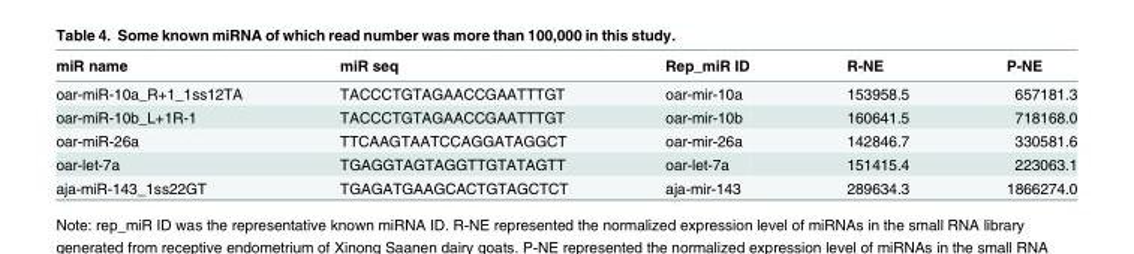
<table><thead><tr><td>miR name</td><td>miR seq</td><td>Rep_miR ID</td><td>R-NE</td><td>P-NE</td></tr></thead><tbody><tr><td>oar-miR-10a_R+1_1ss12TA</td><td>TACCCTGTAGAACCGAATTTGT</td><td>oar-mir-10a</td><td>153958.5</td><td>657181.3</td></tr><tr><td>oar-miR-10b_L+1R-1</td><td>TACCCTGTAGAACCGAATTTGT</td><td>oar-mir-10b</td><td>160641.5</td><td>718168.0</td></tr><tr><td>oar-miR-26a</td><td>TTCAAGTAATCCAGGATAGGCT</td><td>oar-mir-26a</td><td>142846.7</td><td>330581.6</td></tr><tr><td>oar-let-7a</td><td>TGAGGTAGTAGGTTGTATAGTT</td><td>oar-let-7a</td><td>151415.4</td><td>223063.1</td></tr><tr><td>aja-miR-143_1ss22GT</td><td>TGAGATGAAGCACTGTAGCTCT</td><td>aja-mir-143</td><td>289634.3</td><td>1866274.0</td></tr></tbody></table>